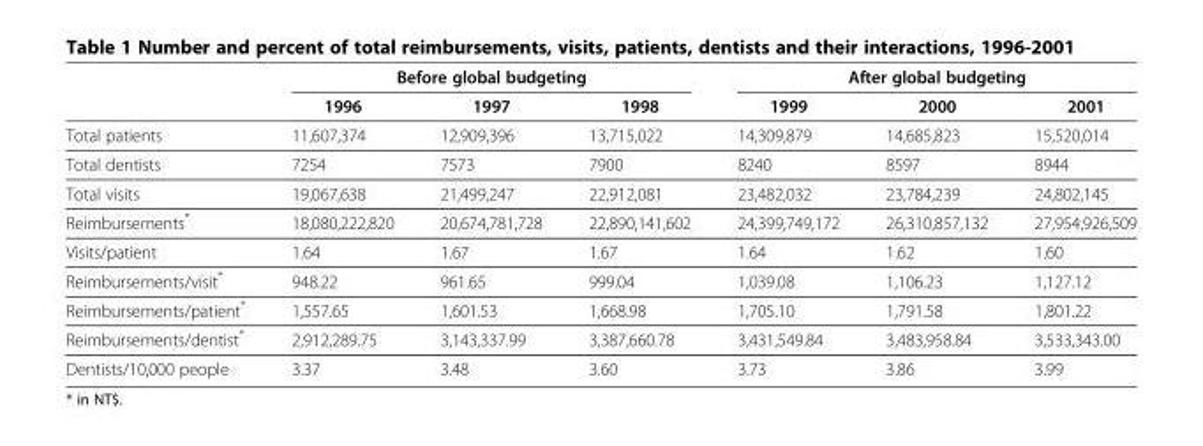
<table><thead><tr><td rowspan="2"></td><td colspan="3">Before global budgeting</td><td colspan="3">After global budgeting</td></tr><tr><td>1996</td><td>1997</td><td>1998</td><td>1999</td><td>2000</td><td>2001</td></tr></thead><tbody><tr><td>Total patients</td><td>11,607,374</td><td>12,909,396</td><td>13,715,022</td><td>14,309,879</td><td>14,685,823</td><td>15,520,014</td></tr><tr><td>Total dentists</td><td>7254</td><td>7573</td><td>7900</td><td>8240</td><td>8597</td><td>8944</td></tr><tr><td>Total visits</td><td>19,067,638</td><td>21,499,247</td><td>22,912,081</td><td>23,482,032</td><td>23,784,239</td><td>24,802,145</td></tr><tr><td>Reimbursements*</td><td>18,080,222,820</td><td>20,674,781,728</td><td>22,890,141,602</td><td>24,399,749,172</td><td>26,310,857,132</td><td>27,954,926,509</td></tr><tr><td>Visits/patient</td><td>1.64</td><td>1.67</td><td>1.67</td><td>1.64</td><td>1.62</td><td>1.60</td></tr><tr><td>Reimbursements/visit*</td><td>948.22</td><td>961.65</td><td>999.04</td><td>1,039.08</td><td>1,106.23</td><td>1,127.12</td></tr><tr><td>Reimbursements/patient*</td><td>1,557.65</td><td>1,601.53</td><td>1,668.98</td><td>1,705.10</td><td>1,791.58</td><td>1,801.22</td></tr><tr><td>Reimbursements/dentist*</td><td>2,912,289.75</td><td>3,143,337.99</td><td>3,387,660.78</td><td>3,431,549.84</td><td>3,483,958.84</td><td>3,533,343.00</td></tr><tr><td>Dentists/10,000 people</td><td>3.37</td><td>3.48</td><td>3.60</td><td>3.73</td><td>3.86</td><td>3.99</td></tr></tbody></table>